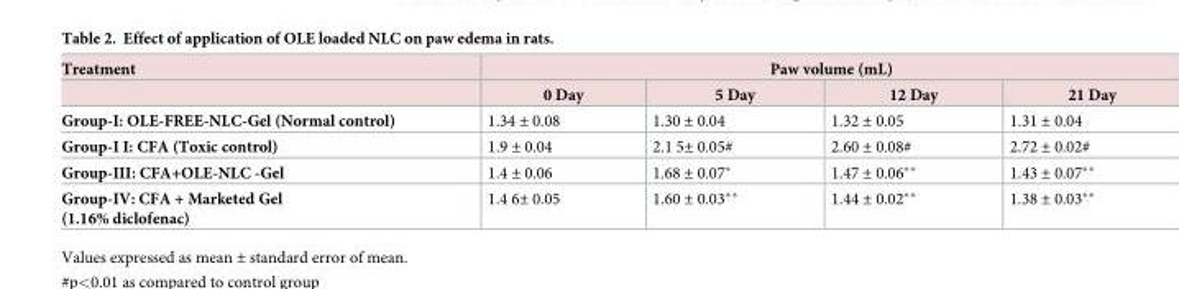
<table><thead><tr><td rowspan="2">Treatment</td><td colspan="4">Paw volume (mL)</td></tr><tr><td>0 Day</td><td>5 Day</td><td>12 Day</td><td>21 Day</td></tr></thead><tbody><tr><td>Group-I: OLE-FREE-NLC-Gel (Normal control)</td><td>1.34 ± 0.08</td><td>1.30 ± 0.04</td><td>1.32 ± 0.05</td><td>1.31 ± 0.04</td></tr><tr><td>Group-I I: CFA (Toxic control)</td><td>1.9 ± 0.04</td><td>2.1 5± 0.05#</td><td>2.60 ± 0.08#</td><td>2.72 ± 0.02#</td></tr><tr><td>Group-III: CFA+OLE-NLC -Gel</td><td>1.4 ± 0.06</td><td>1.68 ± 0.07*</td><td>1.47 ± 0.06**</td><td>1.43 ± 0.07**</td></tr><tr><td>Group-IV: CFA + Marketed Gel (1.16% diclofenac)</td><td>1.4 6± 0.05</td><td>1.60 ± 0.03**</td><td>1.44 ± 0.02**</td><td>1.38 ± 0.03**</td></tr></tbody></table>